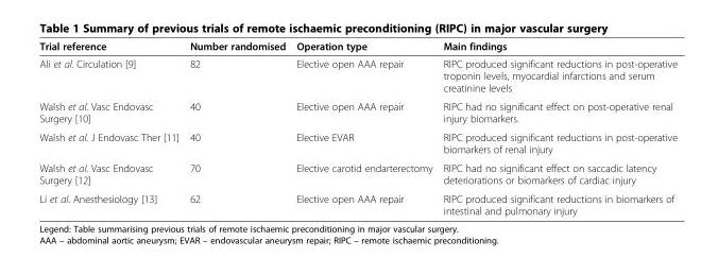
<table><thead><tr><td>Trial reference</td><td>Number randomised</td><td>Operation type</td><td>Main findings</td></tr></thead><tbody><tr><td>Ali et al. Circulation [9]</td><td>82</td><td>Elective open AAA repair</td><td>RIPC produced significant reductions in post-operative troponin levels, myocardial infarctions and serum creatinine levels</td></tr><tr><td>Walsh et al. Vasc Endovasc Surgery [10]</td><td>40</td><td>Elective open AAA repair</td><td>RIPC had no significant effect on post-operative renal injury biomarkers.</td></tr><tr><td>Walsh et al. J Endovasc Ther [11]</td><td>40</td><td>Elective EVAR</td><td>RIPC produced significant reductions in post-operative biomarkers of renal injury</td></tr><tr><td>Walsh et al. Vasc Endovasc Surgery [12]</td><td>70</td><td>Elective carotid endarterectomy</td><td>RIPC had no significant effect on saccadic latency deteriorations or biomarkers of cardiac injury</td></tr><tr><td>Li et al. Anesthesiology [13]</td><td>62</td><td>Elective open AAA repair</td><td>RIPC produced significant reductions in biomarkers of intestinal and pulmonary injury</td></tr></tbody></table>